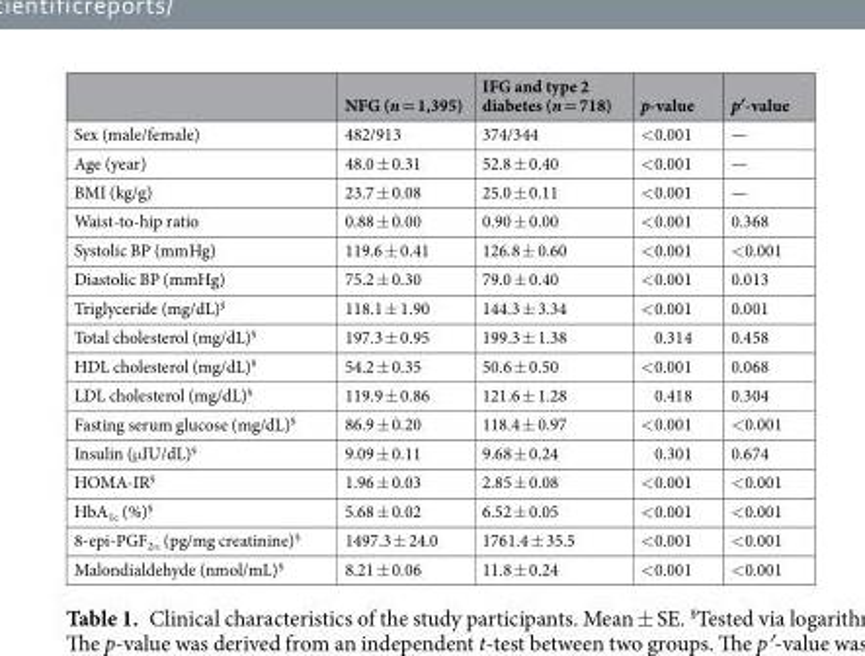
<table><thead><tr><td></td><td>NFG (n = 1,395)</td><td>IFG and type 2 diabetes (n = 718)</td><td>p-value</td><td>p′-value</td></tr></thead><tbody><tr><td>Sex (male/female)</td><td>482/913</td><td>374/344</td><td>&lt;0.001</td><td>—</td></tr><tr><td>Age (year)</td><td>48.0 ± 0.31</td><td>52.8 ± 0.40</td><td>&lt;0.001</td><td>—</td></tr><tr><td>BMI (kg/g)</td><td>23.7 ± 0.08</td><td>25.0 ± 0.11</td><td>&lt;0.001</td><td>—</td></tr><tr><td>Waist-to-hip ratio</td><td>0.88 ± 0.00</td><td>0.90 ± 0.00</td><td>&lt;0.001</td><td>0.368</td></tr><tr><td>Systolic BP (mmHg)</td><td>119.6 ± 0.41</td><td>126.8 ± 0.60</td><td>&lt;0.001</td><td>&lt;0.001</td></tr><tr><td>Diastolic BP (mmHg)</td><td>75.2 ± 0.30</td><td>79.0 ± 0.40</td><td>&lt;0.001</td><td>0.013</td></tr><tr><td>Triglyceride (mg/dL)<sup>§</sup></td><td>118.1 ± 1.90</td><td>144.3 ± 3.34</td><td>&lt;0.001</td><td>0.001</td></tr><tr><td>Total cholesterol (mg/dL)<sup>§</sup></td><td>197.3 ± 0.95</td><td>199.3 ± 1.38</td><td>0.314</td><td>0.458</td></tr><tr><td>HDL cholesterol (mg/dL)<sup>§</sup></td><td>54.2 ± 0.35</td><td>50.6 ± 0.50</td><td>&lt;0.001</td><td>0.068</td></tr><tr><td>LDL cholesterol (mg/dL)<sup>§</sup></td><td>119.9 ± 0.86</td><td>121.6 ± 1.28</td><td>0.418</td><td>0.304</td></tr><tr><td>Fasting serum glucose (mg/dL)<sup>§</sup></td><td>86.9 ± 0.20</td><td>118.4 ± 0.97</td><td>&lt;0.001</td><td>&lt;0.001</td></tr><tr><td>Insulin (μIU/dL)<sup>§</sup></td><td>9.09 ± 0.11</td><td>9.68 ± 0.24</td><td>0.301</td><td>0.674</td></tr><tr><td>HOMA-IR<sup>§</sup></td><td>1.96 ± 0.03</td><td>2.85 ± 0.08</td><td>&lt;0.001</td><td>&lt;0.001</td></tr><tr><td>HbA<sub>1c</sub> (%)<sup>§</sup></td><td>5.68 ± 0.02</td><td>6.52 ± 0.05</td><td>&lt;0.001</td><td>&lt;0.001</td></tr><tr><td>8-epi-PGF<sub>2α</sub> (pg/mg creatinine)<sup>§</sup></td><td>1497.3 ± 24.0</td><td>1761.4 ± 35.5</td><td>&lt;0.001</td><td>&lt;0.001</td></tr><tr><td>Malondialdehyde (nmol/mL)<sup>§</sup></td><td>8.21 ± 0.06</td><td>11.8 ± 0.24</td><td>&lt;0.001</td><td>&lt;0.001</td></tr></tbody></table>